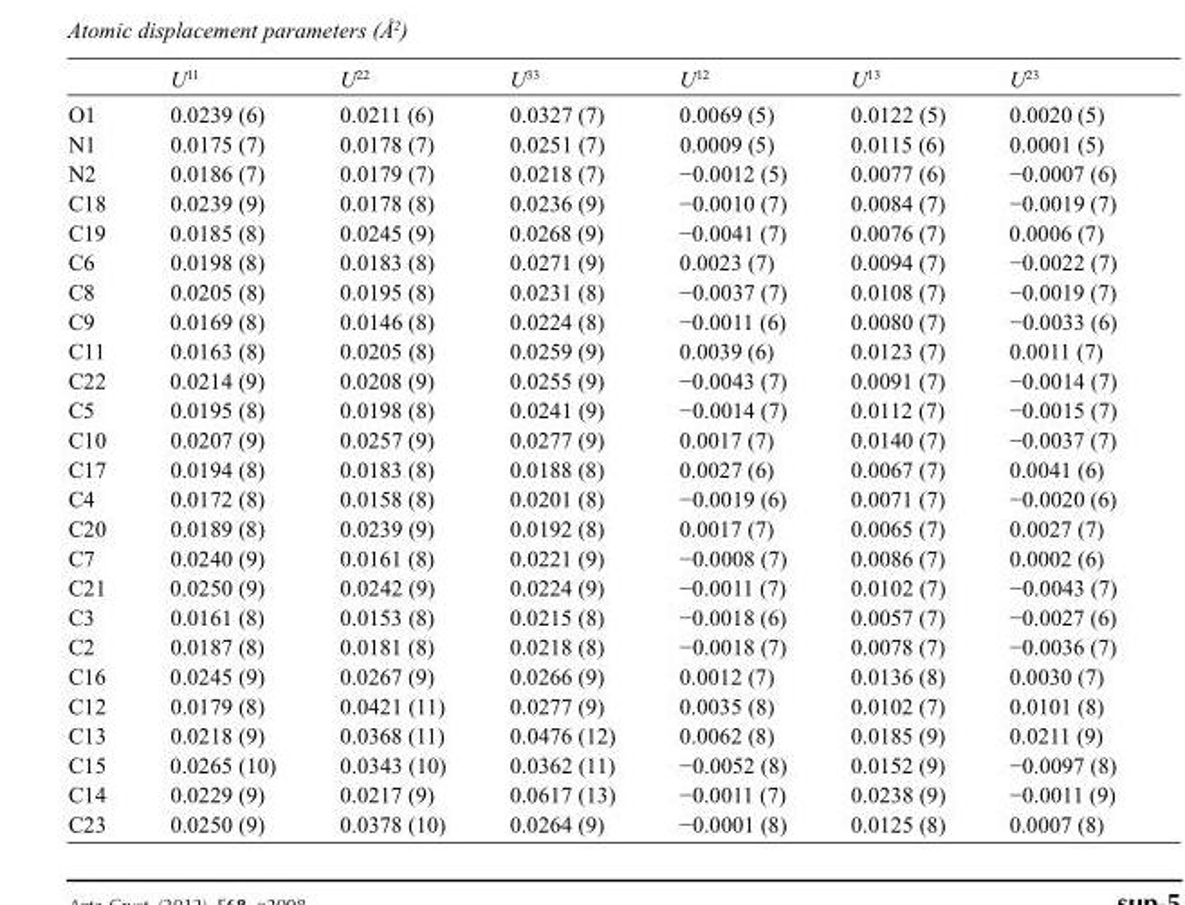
<table><thead><tr><td></td><td>U<sup>11</sup></td><td>U<sup>22</sup></td><td>U<sup>33</sup></td><td>U<sup>12</sup></td><td>U<sup>13</sup></td><td>U<sup>23</sup></td></tr></thead><tbody><tr><td>O1</td><td>0.0239 (6)</td><td>0.0211 (6)</td><td>0.0327 (7)</td><td>0.0069 (5)</td><td>0.0122 (5)</td><td>0.0020 (5)</td></tr><tr><td>N1</td><td>0.0175 (7)</td><td>0.0178 (7)</td><td>0.0251 (7)</td><td>0.0009 (5)</td><td>0.0115 (6)</td><td>0.0001 (5)</td></tr><tr><td>N2</td><td>0.0186 (7)</td><td>0.0179 (7)</td><td>0.0218 (7)</td><td>−0.0012 (5)</td><td>0.0077 (6)</td><td>−0.0007 (6)</td></tr><tr><td>C18</td><td>0.0239 (9)</td><td>0.0178 (8)</td><td>0.0236 (9)</td><td>−0.0010 (7)</td><td>0.0084 (7)</td><td>−0.0019 (7)</td></tr><tr><td>C19</td><td>0.0185 (8)</td><td>0.0245 (9)</td><td>0.0268 (9)</td><td>−0.0041 (7)</td><td>0.0076 (7)</td><td>0.0006 (7)</td></tr><tr><td>C6</td><td>0.0198 (8)</td><td>0.0183 (8)</td><td>0.0271 (9)</td><td>0.0023 (7)</td><td>0.0094 (7)</td><td>−0.0022 (7)</td></tr><tr><td>C8</td><td>0.0205 (8)</td><td>0.0195 (8)</td><td>0.0231 (8)</td><td>−0.0037 (7)</td><td>0.0108 (7)</td><td>−0.0019 (7)</td></tr><tr><td>C9</td><td>0.0169 (8)</td><td>0.0146 (8)</td><td>0.0224 (8)</td><td>−0.0011 (6)</td><td>0.0080 (7)</td><td>−0.0033 (6)</td></tr><tr><td>C11</td><td>0.0163 (8)</td><td>0.0205 (8)</td><td>0.0259 (9)</td><td>0.0039 (6)</td><td>0.0123 (7)</td><td>0.0011 (7)</td></tr><tr><td>C22</td><td>0.0214 (9)</td><td>0.0208 (9)</td><td>0.0255 (9)</td><td>−0.0043 (7)</td><td>0.0091 (7)</td><td>−0.0014 (7)</td></tr><tr><td>C5</td><td>0.0195 (8)</td><td>0.0198 (8)</td><td>0.0241 (9)</td><td>−0.0014 (7)</td><td>0.0112 (7)</td><td>−0.0015 (7)</td></tr><tr><td>C10</td><td>0.0207 (9)</td><td>0.0257 (9)</td><td>0.0277 (9)</td><td>0.0017 (7)</td><td>0.0140 (7)</td><td>−0.0037 (7)</td></tr><tr><td>C17</td><td>0.0194 (8)</td><td>0.0183 (8)</td><td>0.0188 (8)</td><td>0.0027 (6)</td><td>0.0067 (7)</td><td>0.0041 (6)</td></tr><tr><td>C4</td><td>0.0172 (8)</td><td>0.0158 (8)</td><td>0.0201 (8)</td><td>−0.0019 (6)</td><td>0.0071 (7)</td><td>−0.0020 (6)</td></tr><tr><td>C20</td><td>0.0189 (8)</td><td>0.0239 (9)</td><td>0.0192 (8)</td><td>0.0017 (7)</td><td>0.0065 (7)</td><td>0.0027 (7)</td></tr><tr><td>C7</td><td>0.0240 (9)</td><td>0.0161 (8)</td><td>0.0221 (9)</td><td>−0.0008 (7)</td><td>0.0086 (7)</td><td>0.0002 (6)</td></tr><tr><td>C21</td><td>0.0250 (9)</td><td>0.0242 (9)</td><td>0.0224 (9)</td><td>−0.0011 (7)</td><td>0.0102 (7)</td><td>−0.0043 (7)</td></tr><tr><td>C3</td><td>0.0161 (8)</td><td>0.0153 (8)</td><td>0.0215 (8)</td><td>−0.0018 (6)</td><td>0.0057 (7)</td><td>−0.0027 (6)</td></tr><tr><td>C2</td><td>0.0187 (8)</td><td>0.0181 (8)</td><td>0.0218 (8)</td><td>−0.0018 (7)</td><td>0.0078 (7)</td><td>−0.0036 (7)</td></tr><tr><td>C16</td><td>0.0245 (9)</td><td>0.0267 (9)</td><td>0.0266 (9)</td><td>0.0012 (7)</td><td>0.0136 (8)</td><td>0.0030 (7)</td></tr><tr><td>C12</td><td>0.0179 (8)</td><td>0.0421 (11)</td><td>0.0277 (9)</td><td>0.0035 (8)</td><td>0.0102 (7)</td><td>0.0101 (8)</td></tr><tr><td>C13</td><td>0.0218 (9)</td><td>0.0368 (11)</td><td>0.0476 (12)</td><td>0.0062 (8)</td><td>0.0185 (9)</td><td>0.0211 (9)</td></tr><tr><td>C15</td><td>0.0265 (10)</td><td>0.0343 (10)</td><td>0.0362 (11)</td><td>−0.0052 (8)</td><td>0.0152 (9)</td><td>−0.0097 (8)</td></tr><tr><td>C14</td><td>0.0229 (9)</td><td>0.0217 (9)</td><td>0.0617 (13)</td><td>−0.0011 (7)</td><td>0.0238 (9)</td><td>−0.0011 (9)</td></tr><tr><td>C23</td><td>0.0250 (9)</td><td>0.0378 (10)</td><td>0.0264 (9)</td><td>−0.0001 (8)</td><td>0.0125 (8)</td><td>0.0007 (8)</td></tr></tbody></table>